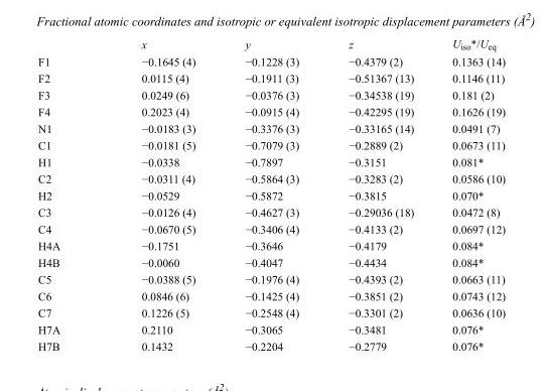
<table><thead><tr><td></td><td>x</td><td>y</td><td>z</td><td>U<sub>iso</sub>*/U<sub>eq</sub></td></tr></thead><tbody><tr><td>F1</td><td>−0.1645 (4)</td><td>−0.1228 (3)</td><td>−0.4379 (2)</td><td>0.1363 (14)</td></tr><tr><td>F2</td><td>0.0115 (4)</td><td>−0.1911 (3)</td><td>−0.51367 (13)</td><td>0.1146 (11)</td></tr><tr><td>F3</td><td>0.0249 (6)</td><td>−0.0376 (3)</td><td>−0.34538 (19)</td><td>0.181 (2)</td></tr><tr><td>F4</td><td>0.2023 (4)</td><td>−0.0915 (4)</td><td>−0.42295 (19)</td><td>0.1626 (19)</td></tr><tr><td>N1</td><td>−0.0183 (3)</td><td>−0.3376 (3)</td><td>−0.33165 (14)</td><td>0.0491 (7)</td></tr><tr><td>C1</td><td>−0.0181 (5)</td><td>−0.7079 (3)</td><td>−0.2889 (2)</td><td>0.0673 (11)</td></tr><tr><td>H1</td><td>−0.0338</td><td>−0.7897</td><td>−0.3151</td><td>0.081*</td></tr><tr><td>C2</td><td>−0.0311 (4)</td><td>−0.5864 (3)</td><td>−0.3283 (2)</td><td>0.0586 (10)</td></tr><tr><td>H2</td><td>−0.0529</td><td>−0.5872</td><td>−0.3815</td><td>0.070*</td></tr><tr><td>C3</td><td>−0.0126 (4)</td><td>−0.4627 (3)</td><td>−0.29036 (18)</td><td>0.0472 (8)</td></tr><tr><td>C4</td><td>−0.0670 (5)</td><td>−0.3406 (4)</td><td>−0.4133 (2)</td><td>0.0697 (12)</td></tr><tr><td>H4A</td><td>−0.1751</td><td>−0.3646</td><td>−0.4179</td><td>0.084*</td></tr><tr><td>H4B</td><td>−0.0060</td><td>−0.4047</td><td>−0.4434</td><td>0.084*</td></tr><tr><td>C5</td><td>−0.0388 (5)</td><td>−0.1976 (4)</td><td>−0.4393 (2)</td><td>0.0663 (11)</td></tr><tr><td>C6</td><td>0.0846 (6)</td><td>−0.1425 (4)</td><td>−0.3851 (2)</td><td>0.0743 (12)</td></tr><tr><td>C7</td><td>0.1226 (5)</td><td>−0.2548 (4)</td><td>−0.3301 (2)</td><td>0.0636 (10)</td></tr><tr><td>H7A</td><td>0.2110</td><td>−0.3065</td><td>−0.3481</td><td>0.076*</td></tr><tr><td>H7B</td><td>0.1432</td><td>−0.2204</td><td>−0.2779</td><td>0.076*</td></tr></tbody></table>